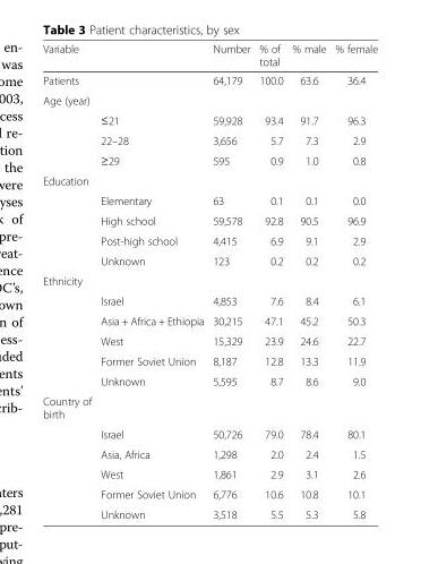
<table><thead><tr><td rowspan="2" colspan="2">Variable Patients</td><td rowspan="3">Number 64,179</td><td rowspan="3">% of total 100.0</td><td rowspan="3">% male 63.6</td><td rowspan="3">% female 36.4</td></tr><tr></tr><tr><td>Age (year)</td><td></td></tr></thead><tbody><tr><td></td><td>≤21</td><td>59,928</td><td>93.4</td><td>91.7</td><td>96.3</td></tr><tr><td></td><td>22–28</td><td>3,656</td><td>5.7</td><td>7.3</td><td>2.9</td></tr><tr><td></td><td>≥29</td><td>595</td><td>0.9</td><td>1.0</td><td>0.8</td></tr><tr><td colspan="6">Education</td></tr><tr><td></td><td>Elementary</td><td>63</td><td>0.1</td><td>0.1</td><td>0.0</td></tr><tr><td></td><td>High school</td><td>59,578</td><td>92.8</td><td>90.5</td><td>96.9</td></tr><tr><td></td><td>Post-high school</td><td>4,415</td><td>6.9</td><td>9.1</td><td>2.9</td></tr><tr><td></td><td>Unknown</td><td>123</td><td>0.2</td><td>0.2</td><td>0.2</td></tr><tr><td colspan="6">Ethnicity</td></tr><tr><td></td><td>Israel</td><td>4,853</td><td>7.6</td><td>8.4</td><td>6.1</td></tr><tr><td></td><td>Asia + Africa + Ethiopia</td><td>30,215</td><td>47.1</td><td>45.2</td><td>50.3</td></tr><tr><td></td><td>West</td><td>15,329</td><td>23.9</td><td>24.6</td><td>22.7</td></tr><tr><td></td><td>Former Soviet Union</td><td>8,187</td><td>12.8</td><td>13.3</td><td>11.9</td></tr><tr><td></td><td>Unknown</td><td>5,595</td><td>8.7</td><td>8.6</td><td>9.0</td></tr><tr><td colspan="6">Country of birth</td></tr><tr><td></td><td>Israel</td><td>50,726</td><td>79.0</td><td>78.4</td><td>80.1</td></tr><tr><td></td><td>Asia, Africa</td><td>1,298</td><td>2.0</td><td>2.4</td><td>1.5</td></tr><tr><td></td><td>West</td><td>1,861</td><td>2.9</td><td>3.1</td><td>2.6</td></tr><tr><td></td><td>Former Soviet Union</td><td>6,776</td><td>10.6</td><td>10.8</td><td>10.1</td></tr><tr><td></td><td>Unknown</td><td>3,518</td><td>5.5</td><td>5.3</td><td>5.8</td></tr></tbody></table>